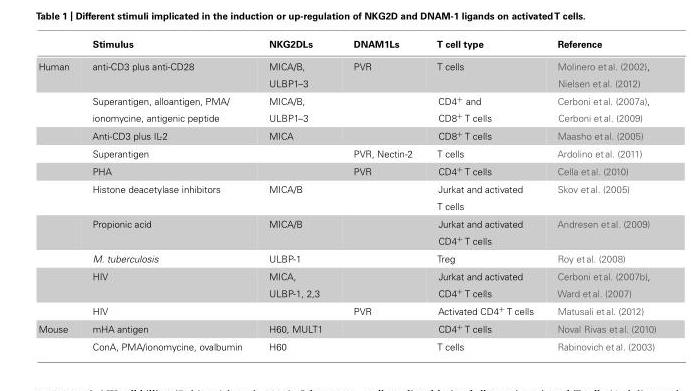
<table><thead><tr><td></td><td>Stimulus</td><td>NKG2DLs</td><td>DNAM1Ls</td><td>T cell type</td><td>Reference</td></tr></thead><tbody><tr><td rowspan="10">Human</td><td>anti-CD3 plus anti-CD28</td><td>MICA/B, ULBP1–3</td><td>PVR</td><td>T cells</td><td>Molinero et al. (2002), Nielsen et al. (2012)</td></tr><tr><td>Superantigen, alloantigen, PMA/ ionomycine, antigenic peptide</td><td>MICA/B, ULBP1–3</td><td></td><td>CD4<sup>+</sup> and CD8<sup>+</sup> T cells</td><td>Cerboni et al. (2007a), Cerboni et al. (2009)</td></tr><tr><td>Anti-CD3 plus IL-2</td><td>MICA</td><td></td><td>CD8<sup>+</sup> T cells</td><td>Maasho et al. (2005)</td></tr><tr><td>Superantigen</td><td></td><td>PVR, Nectin-2</td><td>T cells</td><td>Ardolino et al. (2011)</td></tr><tr><td>PHA</td><td></td><td>PVR</td><td>CD4<sup>+</sup> T cells</td><td>Cella et al. (2010)</td></tr><tr><td>Histone deacetylase inhibitors</td><td>MICA/B</td><td></td><td>Jurkat and activated T cells</td><td>Skov et al. (2005)</td></tr><tr><td>Propionic acid</td><td>MICA/B</td><td></td><td>Jurkat and activated CD4<sup>+</sup> T cells</td><td>Andresen et al. (2009)</td></tr><tr><td>M. tuberculosis</td><td>ULBP-1</td><td></td><td>Treg</td><td>Roy et al. (2008)</td></tr><tr><td>HIV</td><td>MICA, ULBP-1, 2,3</td><td></td><td>Jurkat and activated CD4<sup>+</sup> T cells</td><td>Cerboni et al. (2007b), Ward et al. (2007)</td></tr><tr><td>HIV</td><td></td><td>PVR</td><td>Activated CD4<sup>+</sup> T cells</td><td>Matusali et al. (2012)</td></tr><tr><td rowspan="2">Mouse</td><td>mHA antigen</td><td>H60, MULT1</td><td></td><td>CD4<sup>+</sup> T cells</td><td>Noval Rivas et al. (2010)</td></tr><tr><td>ConA, PMA/ionomycine, ovalbumin</td><td>H60</td><td></td><td>T cells</td><td>Rabinovich et al. (2003)</td></tr></tbody></table>